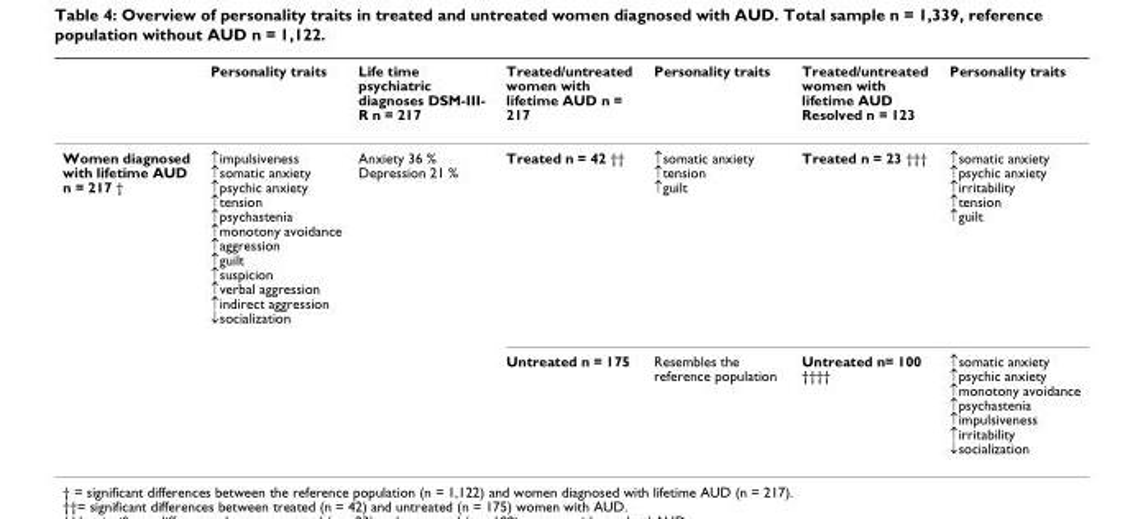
<table><thead><tr><td></td><td>Personality traits</td><td>Life time psychiatric diagnoses DSM-III- R n = 217</td><td>Treated/untreated women with lifetime AUD n = 217</td><td>Personality traits</td><td>Treated/untreated women with lifetime AUD Resolved n = 123</td><td>Personality traits</td></tr></thead><tbody><tr><td rowspan="2">Women diagnosed with lifetime AUD n = 217 †</td><td>↑impulsiveness ↑somatic anxiety ↑psychic anxiety ↑tension ↑psychastenia ↑monotony avoidance ↑aggression ↑guilt ↑suspicion ↑verbal aggression ↑indirect aggression ↓socialization</td><td>Anxiety 36 % Depression 21 %</td><td>Treated n = 42 ††</td><td>↑somatic anxiety ↑tension ↑guilt</td><td>Treated n = 23 †††</td><td>↑somatic anxiety ↑psychic anxiety ↑irritability ↑tension ↑guilt</td></tr><tr><td></td><td></td><td>Untreated n = 175</td><td>Resembles the reference population</td><td>Untreated n= 100 ††††</td><td>↑somatic anxiety ↑psychic anxiety ↑monotony avoidance ↑psychastenia ↑impulsiveness ↑irritability ↓socialization</td></tr></tbody></table>